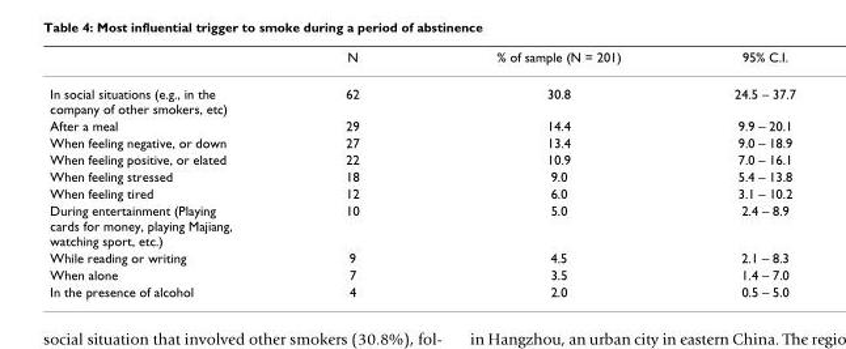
<table><thead><tr><td></td><td>N</td><td>% of sample (N = 201)</td><td>95% C.I.</td></tr></thead><tbody><tr><td>In social situations (e.g., in the company of other smokers, etc)</td><td>62</td><td>30.8</td><td>24.5 – 37.7</td></tr><tr><td>After a meal</td><td>29</td><td>14.4</td><td>9.9 – 20.1</td></tr><tr><td>When feeling negative, or down</td><td>27</td><td>13.4</td><td>9.0 – 18.9</td></tr><tr><td>When feeling positive, or elated</td><td>22</td><td>10.9</td><td>7.0 – 16.1</td></tr><tr><td>When feeling stressed</td><td>18</td><td>9.0</td><td>5.4 – 13.8</td></tr><tr><td>When feeling tired</td><td>12</td><td>6.0</td><td>3.1 – 10.2</td></tr><tr><td>During entertainment (Playing cards for money, playing Majiang, watching sport, etc.)</td><td>10</td><td>5.0</td><td>2.4 – 8.9</td></tr><tr><td>While reading or writing</td><td>9</td><td>4.5</td><td>2.1 – 8.3</td></tr><tr><td>When alone</td><td>7</td><td>3.5</td><td>1.4 – 7.0</td></tr><tr><td>In the presence of alcohol</td><td>4</td><td>2.0</td><td>0.5 – 5.0</td></tr></tbody></table>